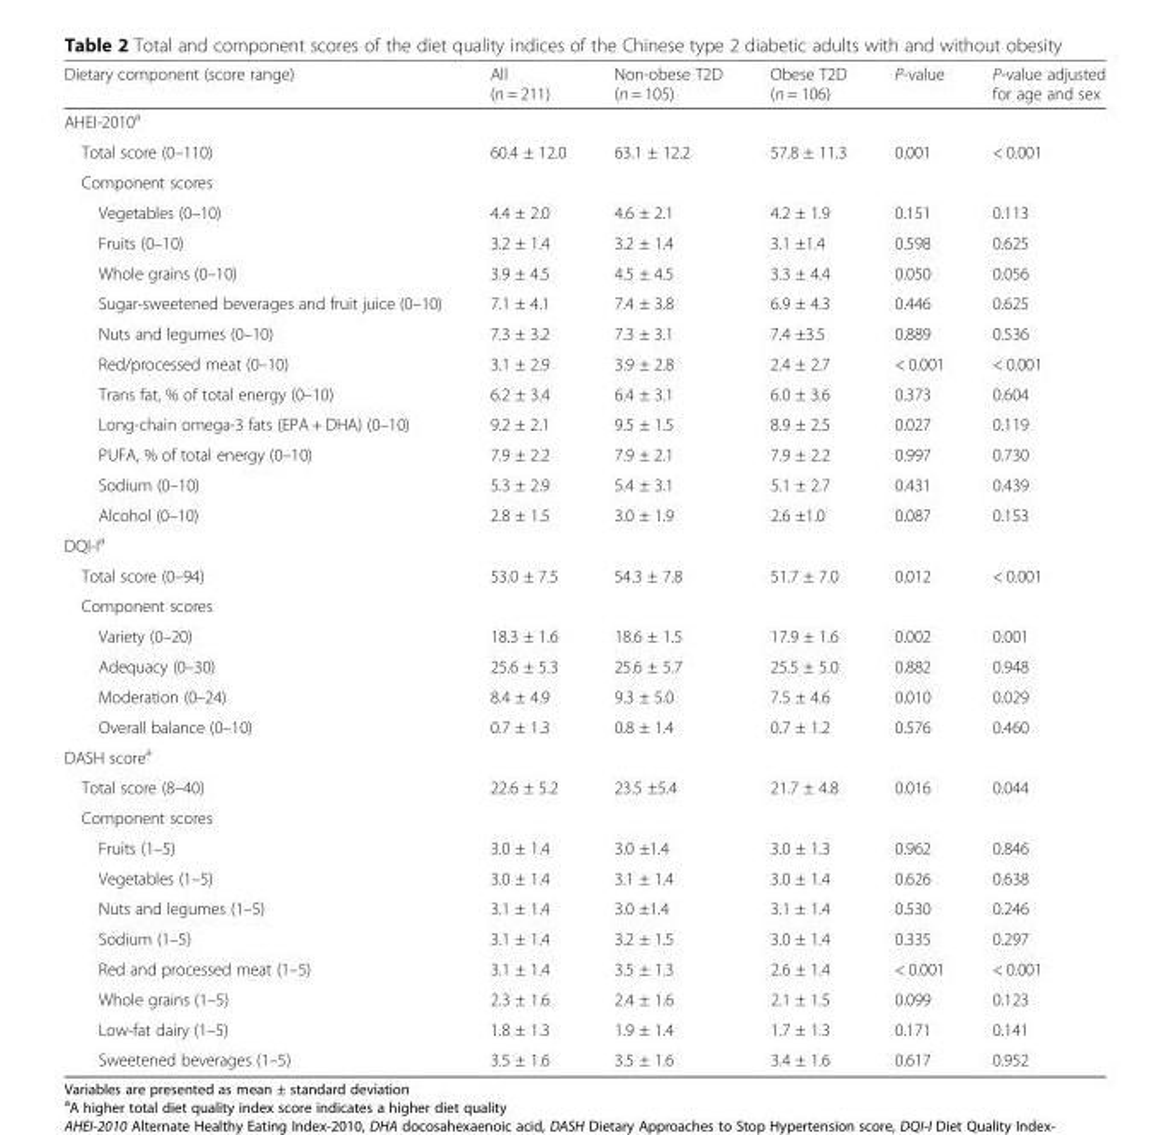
<table><thead><tr><td>Dietary component (score range)</td><td>All (n = 211)</td><td>Non-obese T2D (n = 105)</td><td>Obese T2D (n = 106)</td><td>P-value</td><td>P-value adjusted for age and sex</td></tr></thead><tbody><tr><td colspan="6">AHEI-2010<sup>a</sup></td></tr><tr><td>Total score (0–110)</td><td>60.4 ± 12.0</td><td>63.1 ± 12.2</td><td>57.8 ± 11.3</td><td>0.001</td><td>&lt; 0.001</td></tr><tr><td colspan="6">Component scores</td></tr><tr><td>Vegetables (0–10)</td><td>4.4 ± 2.0</td><td>4.6 ± 2.1</td><td>4.2 ± 1.9</td><td>0.151</td><td>0.113</td></tr><tr><td>Fruits (0–10)</td><td>3.2 ± 1.4</td><td>3.2 ± 1.4</td><td>3.1 ±1.4</td><td>0.598</td><td>0.625</td></tr><tr><td>Whole grains (0–10)</td><td>3.9 ± 4.5</td><td>4.5 ± 4.5</td><td>3.3 ± 4.4</td><td>0.050</td><td>0.056</td></tr><tr><td>Sugar-sweetened beverages and fruit juice (0–10)</td><td>7.1 ± 4.1</td><td>7.4 ± 3.8</td><td>6.9 ± 4.3</td><td>0.446</td><td>0.625</td></tr><tr><td>Nuts and legumes (0–10)</td><td>7.3 ± 3.2</td><td>7.3 ± 3.1</td><td>7.4 ±3.5</td><td>0.889</td><td>0.536</td></tr><tr><td>Red/processed meat (0–10)</td><td>3.1 ± 2.9</td><td>3.9 ± 2.8</td><td>2.4 ± 2.7</td><td>&lt; 0.001</td><td>&lt; 0.001</td></tr><tr><td>Trans fat, % of total energy (0–10)</td><td>6.2 ± 3.4</td><td>6.4 ± 3.1</td><td>6.0 ± 3.6</td><td>0.373</td><td>0.604</td></tr><tr><td>Long-chain omega-3 fats (EPA + DHA) (0–10)</td><td>9.2 ± 2.1</td><td>9.5 ± 1.5</td><td>8.9 ± 2.5</td><td>0.027</td><td>0.119</td></tr><tr><td>PUFA, % of total energy (0–10)</td><td>7.9 ± 2.2</td><td>7.9 ± 2.1</td><td>7.9 ± 2.2</td><td>0.997</td><td>0.730</td></tr><tr><td>Sodium (0–10)</td><td>5.3 ± 2.9</td><td>5.4 ± 3.1</td><td>5.1 ± 2.7</td><td>0.431</td><td>0.439</td></tr><tr><td>Alcohol (0–10)</td><td>2.8 ± 1.5</td><td>3.0 ± 1.9</td><td>2.6 ±1.0</td><td>0.087</td><td>0.153</td></tr><tr><td colspan="6">DQI-I<sup>a</sup></td></tr><tr><td>Total score (0–94)</td><td>53.0 ± 7.5</td><td>54.3 ± 7.8</td><td>51.7 ± 7.0</td><td>0.012</td><td>&lt; 0.001</td></tr><tr><td colspan="6">Component scores</td></tr><tr><td>Variety (0–20)</td><td>18.3 ± 1.6</td><td>18.6 ± 1.5</td><td>17.9 ± 1.6</td><td>0.002</td><td>0.001</td></tr><tr><td>Adequacy (0–30)</td><td>25.6 ± 5.3</td><td>25.6 ± 5.7</td><td>25.5 ± 5.0</td><td>0.882</td><td>0.948</td></tr><tr><td>Moderation (0–24)</td><td>8.4 ± 4.9</td><td>9.3 ± 5.0</td><td>7.5 ± 4.6</td><td>0.010</td><td>0.029</td></tr><tr><td>Overall balance (0–10)</td><td>0.7 ± 1.3</td><td>0.8 ± 1.4</td><td>0.7 ± 1.2</td><td>0.576</td><td>0.460</td></tr><tr><td colspan="6">DASH score<sup>a</sup></td></tr><tr><td>Total score (8–40)</td><td>22.6 ± 5.2</td><td>23.5 ±5.4</td><td>21.7 ± 4.8</td><td>0.016</td><td>0.044</td></tr><tr><td colspan="6">Component scores</td></tr><tr><td>Fruits (1–5)</td><td>3.0 ± 1.4</td><td>3.0 ±1.4</td><td>3.0 ± 1.3</td><td>0.962</td><td>0.846</td></tr><tr><td>Vegetables (1–5)</td><td>3.0 ± 1.4</td><td>3.1 ± 1.4</td><td>3.0 ± 1.4</td><td>0.626</td><td>0.638</td></tr><tr><td>Nuts and legumes (1–5)</td><td>3.1 ± 1.4</td><td>3.0 ±1.4</td><td>3.1 ± 1.4</td><td>0.530</td><td>0.246</td></tr><tr><td>Sodium (1–5)</td><td>3.1 ± 1.4</td><td>3.2 ± 1.5</td><td>3.0 ± 1.4</td><td>0.335</td><td>0.297</td></tr><tr><td>Red and processed meat (1–5)</td><td>3.1 ± 1.4</td><td>3.5 ± 1.3</td><td>2.6 ± 1.4</td><td>&lt; 0.001</td><td>&lt; 0.001</td></tr><tr><td>Whole grains (1–5)</td><td>2.3 ± 1.6</td><td>2.4 ± 1.6</td><td>2.1 ± 1.5</td><td>0.099</td><td>0.123</td></tr><tr><td>Low-fat dairy (1–5)</td><td>1.8 ± 1.3</td><td>1.9 ± 1.4</td><td>1.7 ± 1.3</td><td>0.171</td><td>0.141</td></tr><tr><td>Sweetened beverages (1–5)</td><td>3.5 ± 1.6</td><td>3.5 ± 1.6</td><td>3.4 ± 1.6</td><td>0.617</td><td>0.952</td></tr></tbody></table>